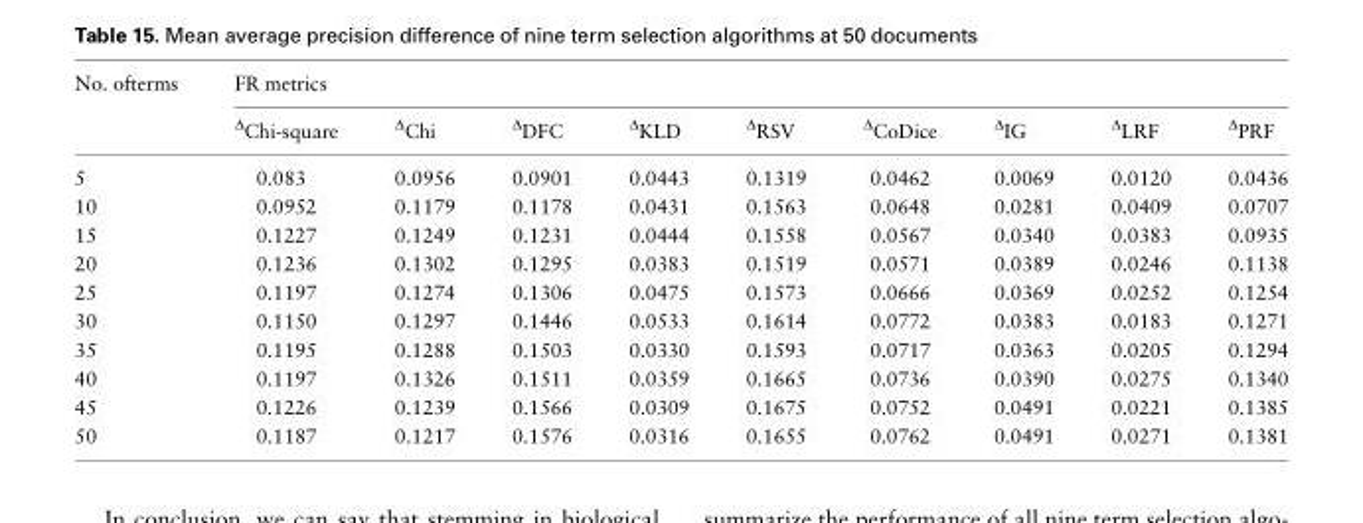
<table><thead><tr><td rowspan="2">No. ofterms</td><td colspan="9">FR metrics</td></tr><tr><td><sup>Δ</sup>Chi-square</td><td><sup>Δ</sup>Chi</td><td><sup>Δ</sup>DFC</td><td><sup>Δ</sup>KLD</td><td><sup>Δ</sup>RSV</td><td><sup>Δ</sup>CoDice</td><td><sup>Δ</sup>IG</td><td><sup>Δ</sup>LRF</td><td><sup>Δ</sup>PRF</td></tr></thead><tbody><tr><td>5</td><td>0.083</td><td>0.0956</td><td>0.0901</td><td>0.0443</td><td>0.1319</td><td>0.0462</td><td>0.0069</td><td>0.0120</td><td>0.0436</td></tr><tr><td>10</td><td>0.0952</td><td>0.1179</td><td>0.1178</td><td>0.0431</td><td>0.1563</td><td>0.0648</td><td>0.0281</td><td>0.0409</td><td>0.0707</td></tr><tr><td>15</td><td>0.1227</td><td>0.1249</td><td>0.1231</td><td>0.0444</td><td>0.1558</td><td>0.0567</td><td>0.0340</td><td>0.0383</td><td>0.0935</td></tr><tr><td>20</td><td>0.1236</td><td>0.1302</td><td>0.1295</td><td>0.0383</td><td>0.1519</td><td>0.0571</td><td>0.0389</td><td>0.0246</td><td>0.1138</td></tr><tr><td>25</td><td>0.1197</td><td>0.1274</td><td>0.1306</td><td>0.0475</td><td>0.1573</td><td>0.0666</td><td>0.0369</td><td>0.0252</td><td>0.1254</td></tr><tr><td>30</td><td>0.1150</td><td>0.1297</td><td>0.1446</td><td>0.0533</td><td>0.1614</td><td>0.0772</td><td>0.0383</td><td>0.0183</td><td>0.1271</td></tr><tr><td>35</td><td>0.1195</td><td>0.1288</td><td>0.1503</td><td>0.0330</td><td>0.1593</td><td>0.0717</td><td>0.0363</td><td>0.0205</td><td>0.1294</td></tr><tr><td>40</td><td>0.1197</td><td>0.1326</td><td>0.1511</td><td>0.0359</td><td>0.1665</td><td>0.0736</td><td>0.0390</td><td>0.0275</td><td>0.1340</td></tr><tr><td>45</td><td>0.1226</td><td>0.1239</td><td>0.1566</td><td>0.0309</td><td>0.1675</td><td>0.0752</td><td>0.0491</td><td>0.0221</td><td>0.1385</td></tr><tr><td>50</td><td>0.1187</td><td>0.1217</td><td>0.1576</td><td>0.0316</td><td>0.1655</td><td>0.0762</td><td>0.0491</td><td>0.0271</td><td>0.1381</td></tr></tbody></table>